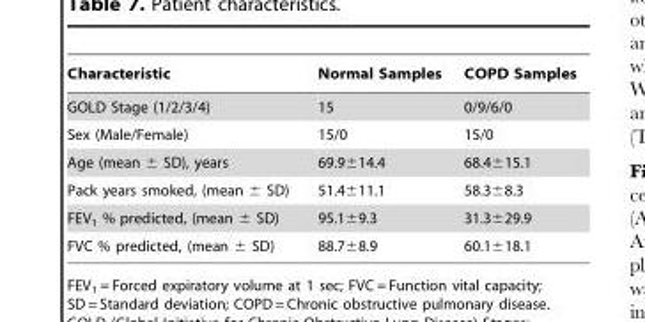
<table><thead><tr><td>Characteristic</td><td>Normal Samples</td><td>COPD Samples</td></tr></thead><tbody><tr><td>GOLD Stage (1/2/3/4)</td><td>15</td><td>0/9/6/0</td></tr><tr><td>Sex (Male/Female)</td><td>15/0</td><td>15/0</td></tr><tr><td>Age (mean ± SD), years</td><td>69.9±14.4</td><td>68.4±15.1</td></tr><tr><td>Pack years smoked, (mean ± SD)</td><td>51.4±11.1</td><td>58.3±8.3</td></tr><tr><td>FEV<sub>1</sub> % predicted, (mean ± SD)</td><td>95.1±9.3</td><td>31.3±29.9</td></tr><tr><td>FVC % predicted, (mean ± SD)</td><td>88.7±8.9</td><td>60.1±18.1</td></tr></tbody></table>